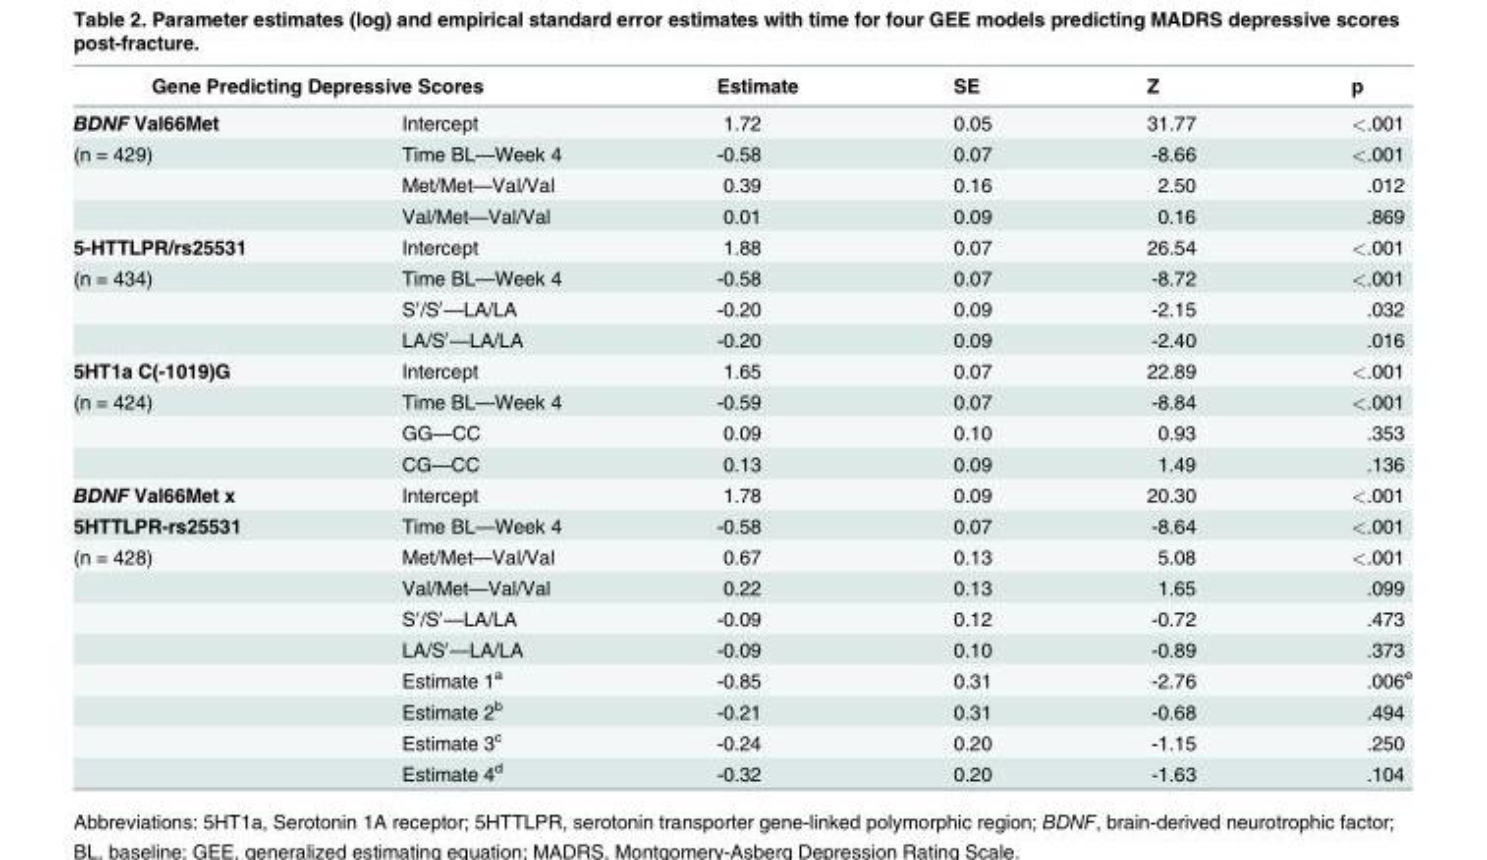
<table><thead><tr><td colspan="2">Gene Predicting Depressive Scores</td><td rowspan="2">Estimate 1.72</td><td rowspan="2">SE 0.05</td><td rowspan="2">Z 31.77</td><td rowspan="2">p &lt;.001</td></tr><tr><td>BDNF Val66Met</td><td>Intercept</td></tr></thead><tbody><tr><td rowspan="3">(n = 429)</td><td>Time BL—Week 4</td><td>-0.58</td><td>0.07</td><td>-8.66</td><td>&lt;.001</td></tr><tr><td>Met/Met—Val/Val</td><td>0.39</td><td>0.16</td><td>2.50</td><td>.012</td></tr><tr><td>Val/Met—Val/Val</td><td>0.01</td><td>0.09</td><td>0.16</td><td>.869</td></tr><tr><td>5-HTTLPR/rs25531</td><td>Intercept</td><td>1.88</td><td>0.07</td><td>26.54</td><td>&lt;.001</td></tr><tr><td rowspan="3">(n = 434)</td><td>Time BL—Week 4</td><td>-0.58</td><td>0.07</td><td>-8.72</td><td>&lt;.001</td></tr><tr><td>S′/S′—LA/LA</td><td>-0.20</td><td>0.09</td><td>-2.15</td><td>.032</td></tr><tr><td>LA/S′—LA/LA</td><td>-0.20</td><td>0.09</td><td>-2.40</td><td>.016</td></tr><tr><td>5HT1a C(-1019)G</td><td>Intercept</td><td>1.65</td><td>0.07</td><td>22.89</td><td>&lt;.001</td></tr><tr><td rowspan="3">(n = 424)</td><td>Time BL—Week 4</td><td>-0.59</td><td>0.07</td><td>-8.84</td><td>&lt;.001</td></tr><tr><td>GG—CC</td><td>0.09</td><td>0.10</td><td>0.93</td><td>.353</td></tr><tr><td>CG—CC</td><td>0.13</td><td>0.09</td><td>1.49</td><td>.136</td></tr><tr><td>BDNF Val66Met x</td><td>Intercept</td><td>1.78</td><td>0.09</td><td>20.30</td><td>&lt;.001</td></tr><tr><td>5HTTLPR-rs25531</td><td>Time BL—Week 4</td><td>-0.58</td><td>0.07</td><td>-8.64</td><td>&lt;.001</td></tr><tr><td rowspan="8">(n = 428)</td><td>Met/Met—Val/Val</td><td>0.67</td><td>0.13</td><td>5.08</td><td>&lt;.001</td></tr><tr><td>Val/Met—Val/Val</td><td>0.22</td><td>0.13</td><td>1.65</td><td>.099</td></tr><tr><td>S′/S′—LA/LA</td><td>-0.09</td><td>0.12</td><td>-0.72</td><td>.473</td></tr><tr><td>LA/S′—LA/LA</td><td>-0.09</td><td>0.10</td><td>-0.89</td><td>.373</td></tr><tr><td>Estimate 1<sup>a</sup></td><td>-0.85</td><td>0.31</td><td>-2.76</td><td>.006<sup>e</sup></td></tr><tr><td>Estimate 2<sup>b</sup></td><td>-0.21</td><td>0.31</td><td>-0.68</td><td>.494</td></tr><tr><td>Estimate 3<sup>c</sup></td><td>-0.24</td><td>0.20</td><td>-1.15</td><td>.250</td></tr><tr><td>Estimate 4<sup>d</sup></td><td>-0.32</td><td>0.20</td><td>-1.63</td><td>.104</td></tr></tbody></table>